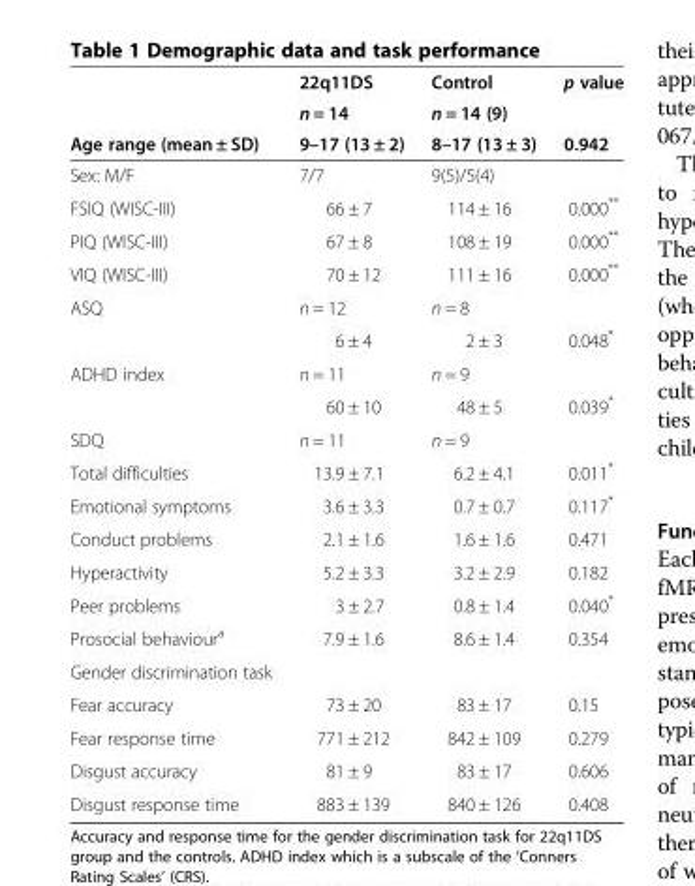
<table><thead><tr><td rowspan="3">Age range (mean ± SD)</td><td rowspan="3">22q11DS n = 14 9–17 (13 ± 2)</td><td rowspan="3">Control n = 14 (9) 8–17 (13 ± 3)</td><td rowspan="3">p value 0.942</td></tr><tr></tr><tr></tr></thead><tbody><tr><td>Sex: M/F</td><td>7/7</td><td>9(5)/5(4)</td><td></td></tr><tr><td>FSIQ (WISC-III)</td><td>66 ± 7</td><td>114 ± 16</td><td>0.000**</td></tr><tr><td>PIQ (WISC-III)</td><td>67 ± 8</td><td>108 ± 19</td><td>0.000**</td></tr><tr><td>VIQ (WISC-III)</td><td>70 ± 12</td><td>111 ± 16</td><td>0.000**</td></tr><tr><td rowspan="2">ASQ</td><td>n = 12</td><td>n = 8</td><td></td></tr><tr><td>6 ± 4</td><td>2 ± 3</td><td>0.048*</td></tr><tr><td rowspan="2">ADHD index</td><td>n = 11</td><td>n = 9</td><td></td></tr><tr><td>60 ± 10</td><td>48 ± 5</td><td>0.039*</td></tr><tr><td>SDQ</td><td>n = 11</td><td>n = 9</td><td></td></tr><tr><td>Total difficulties</td><td>13.9 ± 7.1</td><td>6.2 ± 4.1</td><td>0.011*</td></tr><tr><td>Emotional symptoms</td><td>3.6 ± 3.3</td><td>0.7 ± 0.7</td><td>0.117*</td></tr><tr><td>Conduct problems</td><td>2.1 ± 1.6</td><td>1.6 ± 1.6</td><td>0.471</td></tr><tr><td>Hyperactivity</td><td>5.2 ± 3.3</td><td>3.2 ± 2.9</td><td>0.182</td></tr><tr><td>Peer problems</td><td>3 ± 2.7</td><td>0.8 ± 1.4</td><td>0.040*</td></tr><tr><td>Prosocial behaviour<sup>a</sup></td><td>7.9 ± 1.6</td><td>8.6 ± 1.4</td><td>0.354</td></tr><tr><td colspan="4">Gender discrimination task</td></tr><tr><td>Fear accuracy</td><td>73 ± 20</td><td>83 ± 17</td><td>0.15</td></tr><tr><td>Fear response time</td><td>771 ± 212</td><td>842 ± 109</td><td>0.279</td></tr><tr><td>Disgust accuracy</td><td>81 ± 9</td><td>83 ± 17</td><td>0.606</td></tr><tr><td>Disgust response time</td><td>883 ± 139</td><td>840 ± 126</td><td>0.408</td></tr></tbody></table>